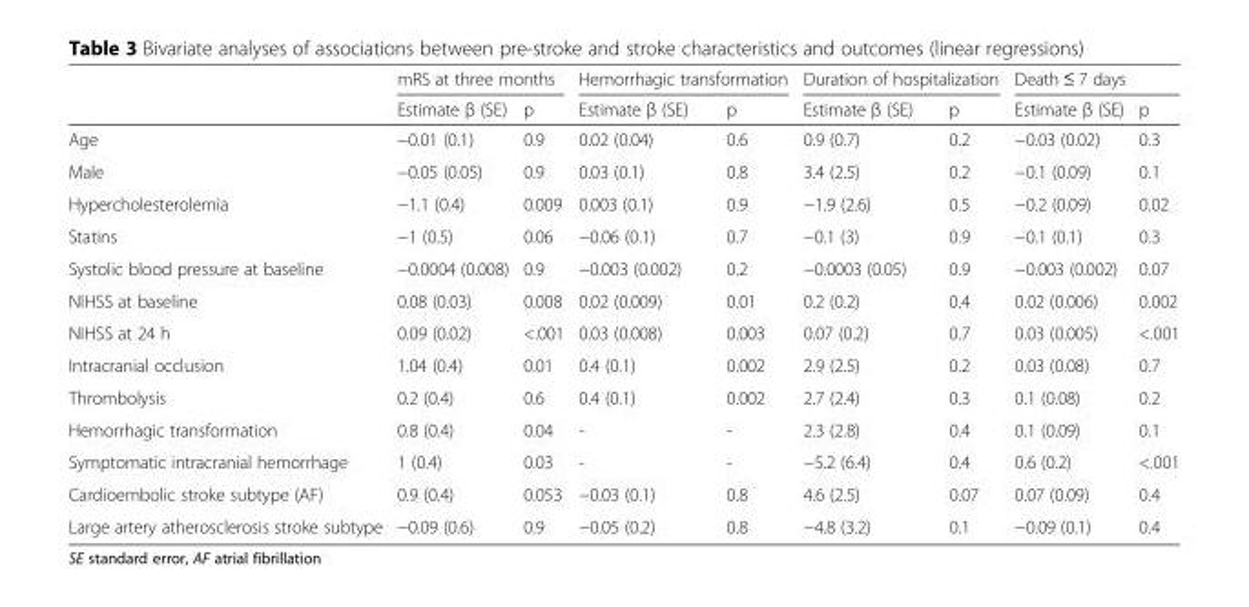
<table><thead><tr><td rowspan="2"></td><td colspan="2">mRS at three months</td><td colspan="2">Hemorrhagic transformation</td><td colspan="2">Duration of hospitalization</td><td colspan="2">Death ≤ 7 days</td></tr><tr><td>Estimate β (SE)</td><td>p</td><td>Estimate β (SE)</td><td>p</td><td>Estimate β (SE)</td><td>p</td><td>Estimate β (SE)</td><td>p</td></tr></thead><tbody><tr><td>Age</td><td>−0.01 (0.1)</td><td>0.9</td><td>0.02 (0.04)</td><td>0.6</td><td>0.9 (0.7)</td><td>0.2</td><td>−0.03 (0.02)</td><td>0.3</td></tr><tr><td>Male</td><td>−0.05 (0.05)</td><td>0.9</td><td>0.03 (0.1)</td><td>0.8</td><td>3.4 (2.5)</td><td>0.2</td><td>−0.1 (0.09)</td><td>0.1</td></tr><tr><td>Hypercholesterolemia</td><td>−1.1 (0.4)</td><td>0.009</td><td>0.003 (0.1)</td><td>0.9</td><td>−1.9 (2.6)</td><td>0.5</td><td>−0.2 (0.09)</td><td>0.02</td></tr><tr><td>Statins</td><td>−1 (0.5)</td><td>0.06</td><td>−0.06 (0.1)</td><td>0.7</td><td>−0.1 (3)</td><td>0.9</td><td>−0.1 (0.1)</td><td>0.3</td></tr><tr><td>Systolic blood pressure at baseline</td><td>−0.0004 (0.008)</td><td>0.9</td><td>−0.003 (0.002)</td><td>0.2</td><td>−0.0003 (0.05)</td><td>0.9</td><td>−0.003 (0.002)</td><td>0.07</td></tr><tr><td>NIHSS at baseline</td><td>0.08 (0.03)</td><td>0.008</td><td>0.02 (0.009)</td><td>0.01</td><td>0.2 (0.2)</td><td>0.4</td><td>0.02 (0.006)</td><td>0.002</td></tr><tr><td>NIHSS at 24 h</td><td>0.09 (0.02)</td><td>&lt;.001</td><td>0.03 (0.008)</td><td>0.003</td><td>0.07 (0.2)</td><td>0.7</td><td>0.03 (0.005)</td><td>&lt;.001</td></tr><tr><td>Intracranial occlusion</td><td>1.04 (0.4)</td><td>0.01</td><td>0.4 (0.1)</td><td>0.002</td><td>2.9 (2.5)</td><td>0.2</td><td>0.03 (0.08)</td><td>0.7</td></tr><tr><td>Thrombolysis</td><td>0.2 (0.4)</td><td>0.6</td><td>0.4 (0.1)</td><td>0.002</td><td>2.7 (2.4)</td><td>0.3</td><td>0.1 (0.08)</td><td>0.2</td></tr><tr><td>Hemorrhagic transformation</td><td>0.8 (0.4)</td><td>0.04</td><td>-</td><td>-</td><td>2.3 (2.8)</td><td>0.4</td><td>0.1 (0.09)</td><td>0.1</td></tr><tr><td>Symptomatic intracranial hemorrhage</td><td>1 (0.4)</td><td>0.03</td><td>-</td><td>-</td><td>−5.2 (6.4)</td><td>0.4</td><td>0.6 (0.2)</td><td>&lt;.001</td></tr><tr><td>Cardioembolic stroke subtype (AF)</td><td>0.9 (0.4)</td><td>0.053</td><td>−0.03 (0.1)</td><td>0.8</td><td>4.6 (2.5)</td><td>0.07</td><td>0.07 (0.09)</td><td>0.4</td></tr><tr><td>Large artery atherosclerosis stroke subtype</td><td>−0.09 (0.6)</td><td>0.9</td><td>−0.05 (0.2)</td><td>0.8</td><td>−4.8 (3.2)</td><td>0.1</td><td>−0.09 (0.1)</td><td>0.4</td></tr></tbody></table>